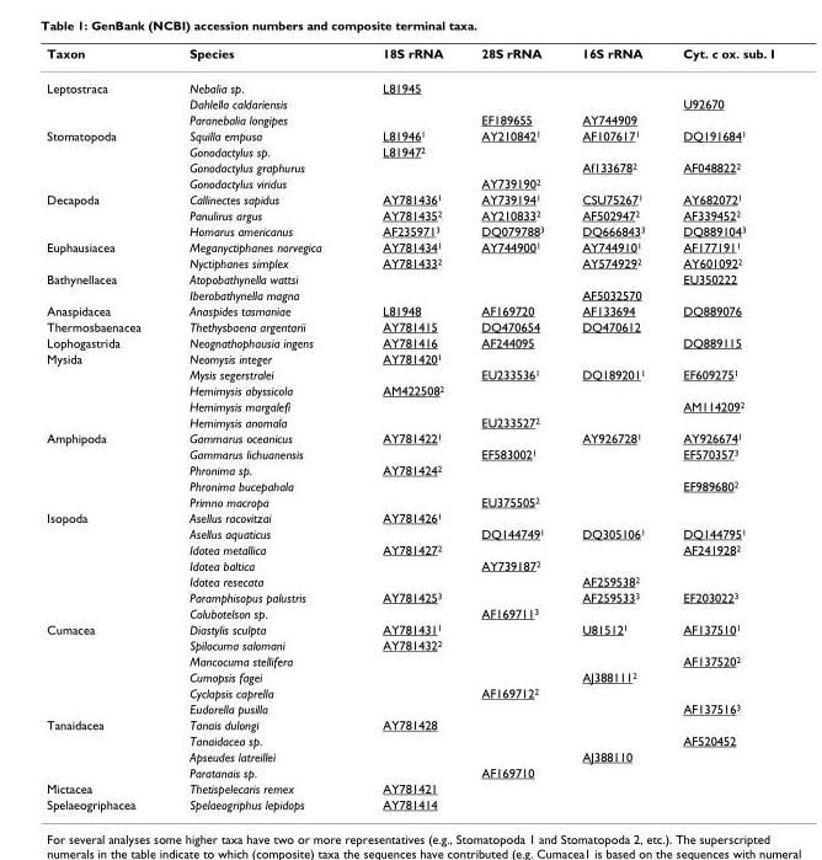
<table><thead><tr><td>Taxon</td><td>Species</td><td>18S rRNA</td><td>28S rRNA</td><td>16S rRNA</td><td>Cyt. c ox. sub. I</td></tr></thead><tbody><tr><td rowspan="3">Leptostraca</td><td>Nebalia sp.</td><td>L81945</td><td></td><td></td><td></td></tr><tr><td>Dahlella caldariensis</td><td></td><td></td><td></td><td>U92670</td></tr><tr><td>Paranebalia longipes</td><td></td><td>EF189655</td><td>AY744909</td><td></td></tr><tr><td rowspan="4">Stomatopoda</td><td>Squilla empusa</td><td>L81946<sup>1</sup></td><td>AY210842<sup>1</sup></td><td>AF107617<sup>1</sup></td><td>DQ191684<sup>1</sup></td></tr><tr><td>Gonodactylus sp.</td><td>L81947<sup>2</sup></td><td></td><td></td><td></td></tr><tr><td>Gonodactylus graphurus</td><td></td><td></td><td>Af133678<sup>2</sup></td><td>AF048822<sup>2</sup></td></tr><tr><td>Gonodactylus viridus</td><td></td><td>AY739190<sup>2</sup></td><td></td><td></td></tr><tr><td rowspan="3">Decapoda</td><td>Callinectes sapidus</td><td>AY781436<sup>1</sup></td><td>AY739194<sup>1</sup></td><td>CSU75267<sup>1</sup></td><td>AY682072<sup>1</sup></td></tr><tr><td>Panulirus argus</td><td>AY781435<sup>2</sup></td><td>AY210833<sup>2</sup></td><td>AF502947<sup>2</sup></td><td>AF339452<sup>2</sup></td></tr><tr><td>Homarus americanus</td><td>AF235971<sup>3</sup></td><td>DQ079788<sup>3</sup></td><td>DQ666843<sup>3</sup></td><td>DQ889104<sup>3</sup></td></tr><tr><td rowspan="2">Euphausiacea</td><td>Meganyctiphanes norvegica</td><td>AY781434<sup>1</sup></td><td>AY744900<sup>1</sup></td><td>AY744910<sup>1</sup></td><td>AF177191<sup>1</sup></td></tr><tr><td>Nyctiphanes simplex</td><td>AY781433<sup>2</sup></td><td></td><td>AY574929<sup>2</sup></td><td>AY601092<sup>2</sup></td></tr><tr><td rowspan="2">Bathynellacea</td><td>Atopobathynella wattsi</td><td></td><td></td><td></td><td>EU350222</td></tr><tr><td>Iberobathynella magna</td><td></td><td></td><td>AF5032570</td><td></td></tr><tr><td>Anaspidacea</td><td>Anaspides tasmaniae</td><td>L81948</td><td>AF169720</td><td>AF133694</td><td>DQ889076</td></tr><tr><td>Thermosbaenacea</td><td>Thethysbaena argentarii</td><td>AY781415</td><td>DQ470654</td><td>DQ470612</td><td></td></tr><tr><td>Lophogastrida</td><td>Neognathophausia ingens</td><td>AY781416</td><td>AF244095</td><td></td><td>DQ889115</td></tr><tr><td rowspan="5">Mysida</td><td>Neomysis integer</td><td>AY781420<sup>1</sup></td><td></td><td></td><td></td></tr><tr><td>Mysis segerstralei</td><td></td><td>EU233536<sup>1</sup></td><td>DQ189201<sup>1</sup></td><td>EF609275<sup>1</sup></td></tr><tr><td>Hemimysis abyssicola</td><td>AM422508<sup>2</sup></td><td></td><td></td><td></td></tr><tr><td>Hemimysis margalefi</td><td></td><td></td><td></td><td>AM114209<sup>2</sup></td></tr><tr><td>Hemimysis anomala</td><td></td><td>EU233527<sup>2</sup></td><td></td><td></td></tr><tr><td rowspan="5">Amphipoda</td><td>Gammarus oceanicus</td><td>AY781422<sup>1</sup></td><td></td><td>AY926728<sup>1</sup></td><td>AY926674<sup>1</sup></td></tr><tr><td>Gammarus lichuanensis</td><td></td><td>EF583002<sup>1</sup></td><td></td><td>EF570357<sup>3</sup></td></tr><tr><td>Phronima sp.</td><td>AY781424<sup>2</sup></td><td></td><td></td><td></td></tr><tr><td>Phronima bucepahala</td><td></td><td></td><td></td><td>EF989680<sup>2</sup></td></tr><tr><td>Primno macropa</td><td></td><td>EU375505<sup>2</sup></td><td></td><td></td></tr><tr><td rowspan="7">Isopoda</td><td>Asellus racovitzai</td><td>AY781426<sup>1</sup></td><td></td><td></td><td></td></tr><tr><td>Asellus aquaticus</td><td></td><td>DQ144749<sup>1</sup></td><td>DQ305106<sup>1</sup></td><td>DQ144795<sup>1</sup></td></tr><tr><td>Idotea metallica</td><td>AY781427<sup>2</sup></td><td></td><td></td><td>AF241928<sup>2</sup></td></tr><tr><td>Idotea baltica</td><td></td><td>AY739187<sup>2</sup></td><td></td><td></td></tr><tr><td>Idotea resecata</td><td></td><td></td><td>AF259538<sup>2</sup></td><td></td></tr><tr><td>Paramphisopus palustris</td><td>AY781425<sup>3</sup></td><td></td><td>AF259533<sup>3</sup></td><td>EF203022<sup>3</sup></td></tr><tr><td>Colubotelson sp.</td><td></td><td>AF169711<sup>3</sup></td><td></td><td></td></tr><tr><td rowspan="6">Cumacea</td><td>Diastylis sculpta</td><td>AY781431<sup>1</sup></td><td></td><td>U81512<sup>1</sup></td><td>AF137510<sup>1</sup></td></tr><tr><td>Spilocuma salomani</td><td>AY781432<sup>2</sup></td><td></td><td></td><td></td></tr><tr><td>Mancocuma stellifera</td><td></td><td></td><td></td><td>AF137520<sup>2</sup></td></tr><tr><td>Cumopsis fagei</td><td></td><td></td><td>AJ388111<sup>2</sup></td><td></td></tr><tr><td>Cyclapsis caprella</td><td></td><td>AF169712<sup>2</sup></td><td></td><td></td></tr><tr><td>Eudorella pusilla</td><td></td><td></td><td></td><td>AF137516<sup>3</sup></td></tr><tr><td rowspan="4">Tanaidacea</td><td>Tanais dulongi</td><td>AY781428</td><td></td><td></td><td></td></tr><tr><td>Tanaidacea sp.</td><td></td><td></td><td></td><td>AF520452</td></tr><tr><td>Apseudes latreillei</td><td></td><td></td><td>AJ388110</td><td></td></tr><tr><td>Paratanais sp.</td><td></td><td>AF169710</td><td></td><td></td></tr><tr><td>Mictacea</td><td>Thetispelecaris remex</td><td>AY781421</td><td></td><td></td><td></td></tr><tr><td>Spelaeogriphacea</td><td>Spelaeogriphus lepidops</td><td>AY781414</td><td></td><td></td><td></td></tr></tbody></table>